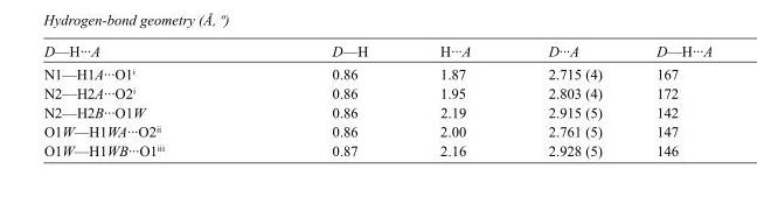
<table><tbody><tr><td>D—H···A</td><td>D—H</td><td>H···A</td><td>D···A</td><td>D—H···A</td></tr><tr><td>N1—H1A···O1<sup>i</sup></td><td>0.86</td><td>1.87</td><td>2.715 (4)</td><td>167</td></tr><tr><td>N2—H2A···O2<sup>i</sup></td><td>0.86</td><td>1.95</td><td>2.803 (4)</td><td>172</td></tr><tr><td>N2—H2B···O1W</td><td>0.86</td><td>2.19</td><td>2.915 (5)</td><td>142</td></tr><tr><td>O1W—H1WA···O2<sup>ii</sup></td><td>0.86</td><td>2.00</td><td>2.761 (5)</td><td>147</td></tr><tr><td>O1W—H1WB···O1<sup>iii</sup></td><td>0.87</td><td>2.16</td><td>2.928 (5)</td><td>146</td></tr></tbody></table>